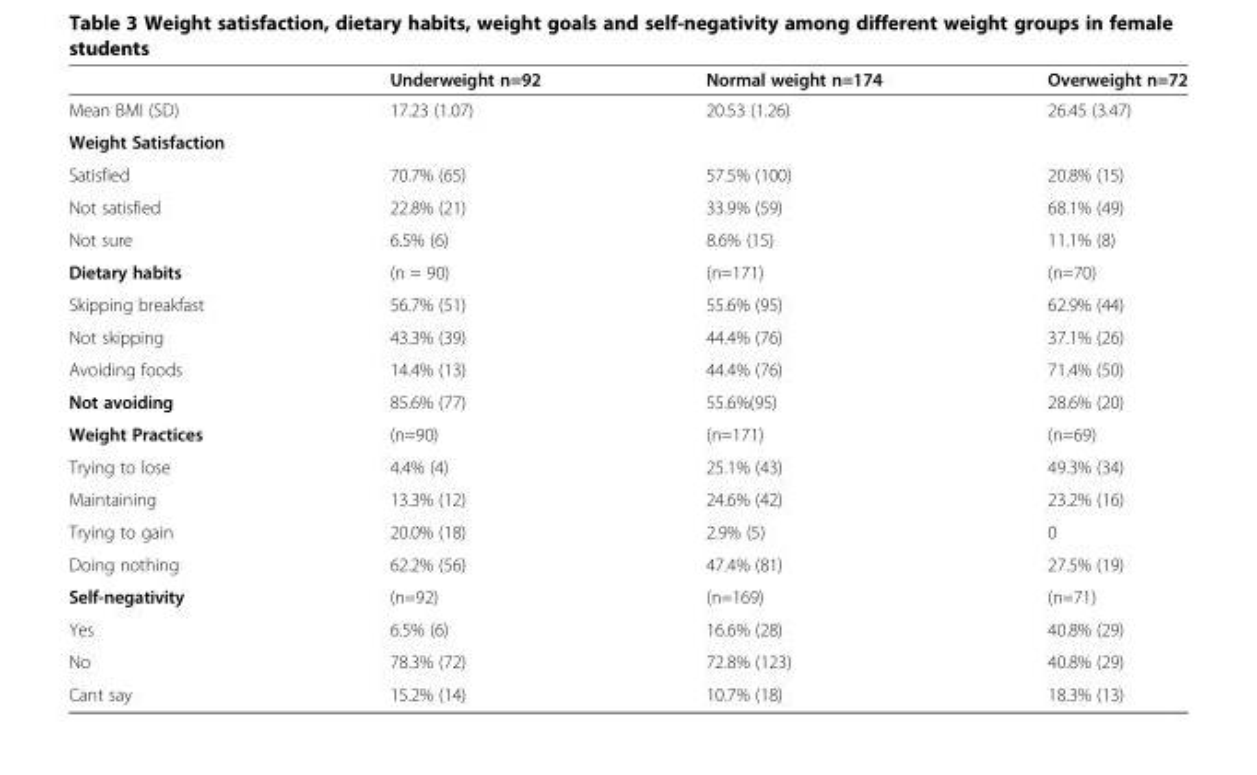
<table><thead><tr><td></td><td>Underweight n=92</td><td>Normal weight n=174</td><td>Overweight n=72</td></tr></thead><tbody><tr><td>Mean BMI (SD)</td><td>17.23 (1.07)</td><td>20.53 (1.26)</td><td>26.45 (3.47)</td></tr><tr><td colspan="4">Weight Satisfaction</td></tr><tr><td>Satisfied</td><td>70.7% (65)</td><td>57.5% (100)</td><td>20.8% (15)</td></tr><tr><td>Not satisfied</td><td>22.8% (21)</td><td>33.9% (59)</td><td>68.1% (49)</td></tr><tr><td>Not sure</td><td>6.5% (6)</td><td>8.6% (15)</td><td>11.1% (8)</td></tr><tr><td>Dietary habits</td><td>(n = 90)</td><td>(n=171)</td><td>(n=70)</td></tr><tr><td>Skipping breakfast</td><td>56.7% (51)</td><td>55.6% (95)</td><td>62.9% (44)</td></tr><tr><td>Not skipping</td><td>43.3% (39)</td><td>44.4% (76)</td><td>37.1% (26)</td></tr><tr><td>Avoiding foods</td><td>14.4% (13)</td><td>44.4% (76)</td><td>71.4% (50)</td></tr><tr><td>Not avoiding</td><td>85.6% (77)</td><td>55.6%(95)</td><td>28.6% (20)</td></tr><tr><td>Weight Practices</td><td>(n=90)</td><td>(n=171)</td><td>(n=69)</td></tr><tr><td>Trying to lose</td><td>4.4% (4)</td><td>25.1% (43)</td><td>49.3% (34)</td></tr><tr><td>Maintaining</td><td>13.3% (12)</td><td>24.6% (42)</td><td>23.2% (16)</td></tr><tr><td>Trying to gain</td><td>20.0% (18)</td><td>2.9% (5)</td><td>0</td></tr><tr><td>Doing nothing</td><td>62.2% (56)</td><td>47.4% (81)</td><td>27.5% (19)</td></tr><tr><td>Self-negativity</td><td>(n=92)</td><td>(n=169)</td><td>(n=71)</td></tr><tr><td>Yes</td><td>6.5% (6)</td><td>16.6% (28)</td><td>40.8% (29)</td></tr><tr><td>No</td><td>78.3% (72)</td><td>72.8% (123)</td><td>40.8% (29)</td></tr><tr><td>Cant say</td><td>15.2% (14)</td><td>10.7% (18)</td><td>18.3% (13)</td></tr></tbody></table>